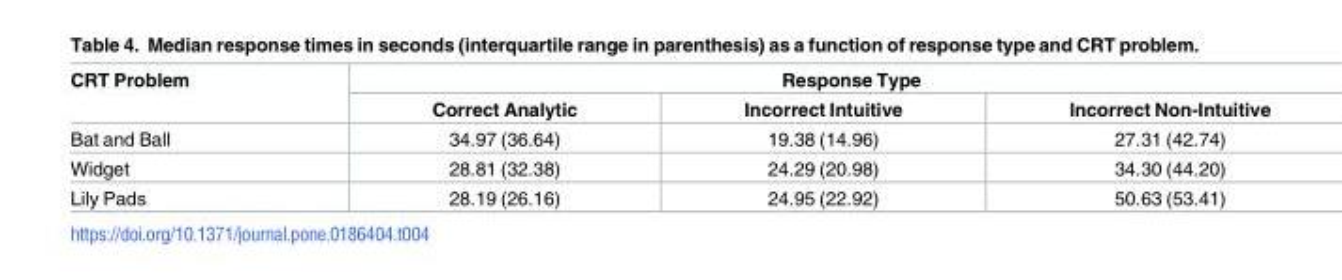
<table><thead><tr><td rowspan="2">CRT Problem</td><td colspan="3">Response Type</td></tr><tr><td>Correct Analytic</td><td>Incorrect Intuitive</td><td>Incorrect Non-Intuitive</td></tr></thead><tbody><tr><td>Bat and Ball</td><td>34.97 (36.64)</td><td>19.38 (14.96)</td><td>27.31 (42.74)</td></tr><tr><td>Widget</td><td>28.81 (32.38)</td><td>24.29 (20.98)</td><td>34.30 (44.20)</td></tr><tr><td>Lily Pads</td><td>28.19 (26.16)</td><td>24.95 (22.92)</td><td>50.63 (53.41)</td></tr></tbody></table>